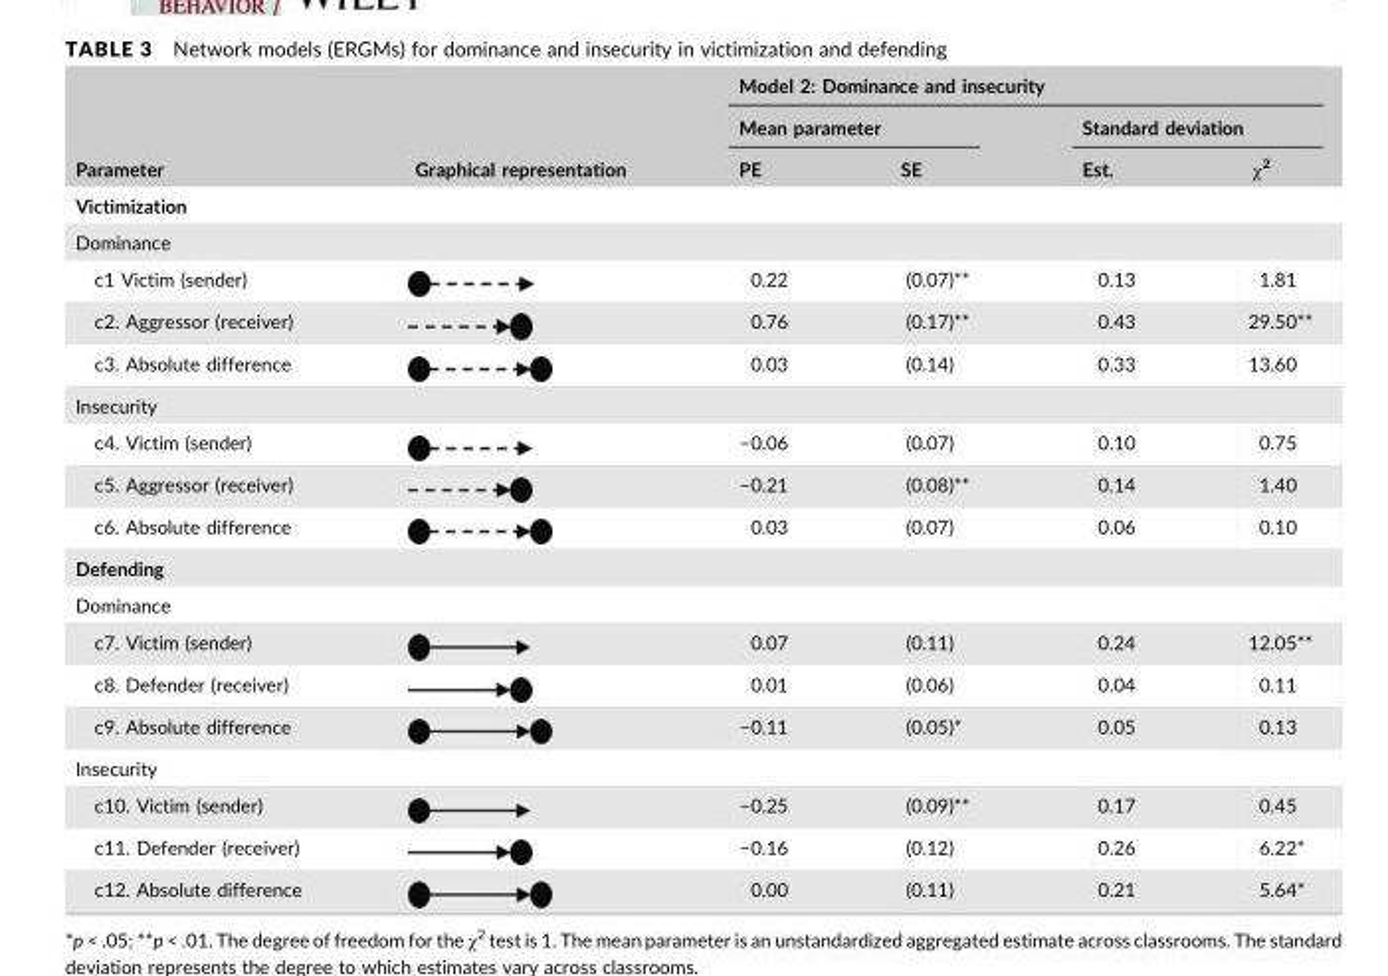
<table><thead><tr><td rowspan="3">Parameter</td><td rowspan="3">Graphical representation</td><td colspan="4">Model 2: Dominance and insecurity</td></tr><tr><td colspan="2">Mean parameter</td><td colspan="2">Standard deviation</td></tr><tr><td>PE</td><td>SE</td><td>Est.</td><td>χ<sup>2</sup></td></tr></thead><tbody><tr><td colspan="6">Victimization</td></tr><tr><td colspan="6">Dominance</td></tr><tr><td>c1 Victim (sender)</td><td></td><td>0.22</td><td>(0.07)**</td><td>0.13</td><td>1.81</td></tr><tr><td>c2. Aggressor (receiver)</td><td></td><td>0.76</td><td>(0.17)**</td><td>0.43</td><td>29.50**</td></tr><tr><td>c3. Absolute difference</td><td></td><td>0.03</td><td>(0.14)</td><td>0.33</td><td>13.60</td></tr><tr><td colspan="6">Insecurity</td></tr><tr><td>c4. Victim (sender)</td><td></td><td>−0.06</td><td>(0.07)</td><td>0.10</td><td>0.75</td></tr><tr><td>c5. Aggressor (receiver)</td><td></td><td>−0.21</td><td>(0.08)**</td><td>0.14</td><td>1.40</td></tr><tr><td>c6. Absolute difference</td><td></td><td>0.03</td><td>(0.07)</td><td>0.06</td><td>0.10</td></tr><tr><td colspan="6">Defending</td></tr><tr><td colspan="6">Dominance</td></tr><tr><td>c7. Victim (sender)</td><td></td><td>0.07</td><td>(0.11)</td><td>0.24</td><td>12.05**</td></tr><tr><td>c8. Defender (receiver)</td><td></td><td>0.01</td><td>(0.06)</td><td>0.04</td><td>0.11</td></tr><tr><td>c9. Absolute difference</td><td></td><td>−0.11</td><td>(0.05)*</td><td>0.05</td><td>0.13</td></tr><tr><td colspan="6">Insecurity</td></tr><tr><td>c10. Victim (sender)</td><td></td><td>−0.25</td><td>(0.09)**</td><td>0.17</td><td>0.45</td></tr><tr><td>c11. Defender (receiver)</td><td></td><td>−0.16</td><td>(0.12)</td><td>0.26</td><td>6.22*</td></tr><tr><td>c12. Absolute difference</td><td></td><td>0.00</td><td>(0.11)</td><td>0.21</td><td>5.64*</td></tr></tbody></table>